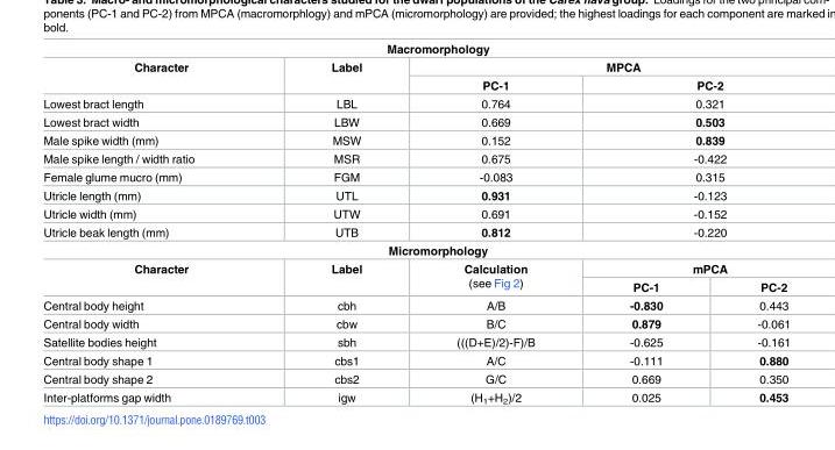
<table><tbody><tr><td colspan="5">Macromorphology</td></tr><tr><td rowspan="2">Character</td><td rowspan="2">Label</td><td colspan="3">MPCA</td></tr><tr><td>PC-1</td><td colspan="2">PC-2</td></tr><tr><td>Lowest bract length</td><td>LBL</td><td>0.764</td><td colspan="2">0.321</td></tr><tr><td>Lowest bract width</td><td>LBW</td><td>0.669</td><td colspan="2">0.503</td></tr><tr><td>Male spike width (mm)</td><td>MSW</td><td>0.152</td><td colspan="2">0.839</td></tr><tr><td>Male spike length / width ratio</td><td>MSR</td><td>0.675</td><td colspan="2">-0.422</td></tr><tr><td>Female glume mucro (mm)</td><td>FGM</td><td>-0.083</td><td colspan="2">0.315</td></tr><tr><td>Utricle length (mm)</td><td>UTL</td><td>0.931</td><td colspan="2">-0.123</td></tr><tr><td>Utricle width (mm)</td><td>UTW</td><td>0.691</td><td colspan="2">-0.152</td></tr><tr><td>Utricle beak length (mm)</td><td>UTB</td><td>0.812</td><td colspan="2">-0.220</td></tr><tr><td colspan="5">Micromorphology</td></tr><tr><td rowspan="2">Character</td><td rowspan="2">Label</td><td rowspan="2">Calculation (see Fig 2)</td><td colspan="2">mPCA</td></tr><tr><td>PC-1</td><td>PC-2</td></tr><tr><td>Central body height</td><td>cbh</td><td>A/B</td><td>-0.830</td><td>0.443</td></tr><tr><td>Central body width</td><td>cbw</td><td>B/C</td><td>0.879</td><td>-0.061</td></tr><tr><td>Satellite bodies height</td><td>sbh</td><td>(((D+E)/2)-F)/B</td><td>-0.625</td><td>-0.161</td></tr><tr><td>Central body shape 1</td><td>cbs1</td><td>A/C</td><td>-0.111</td><td>0.880</td></tr><tr><td>Central body shape 2</td><td>cbs2</td><td>G/C</td><td>0.669</td><td>0.350</td></tr><tr><td>Inter-platforms gap width</td><td>igw</td><td>(H<sub>1</sub>+H<sub>2</sub>)/2</td><td>0.025</td><td>0.453</td></tr></tbody></table>